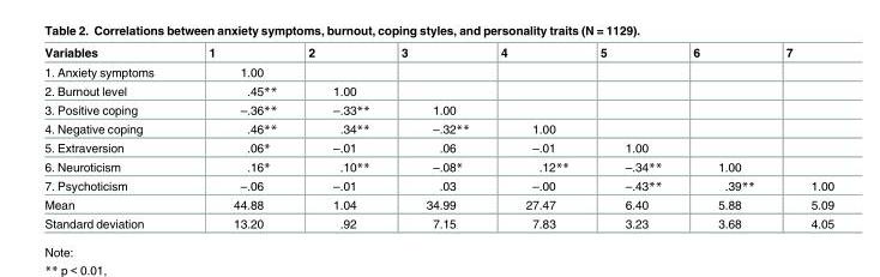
<table><thead><tr><td>Variables</td><td>1</td><td>2</td><td>3</td><td>4</td><td>5</td><td>6</td><td>7</td></tr></thead><tbody><tr><td>1. Anxiety symptoms</td><td>1.00</td><td></td><td></td><td></td><td></td><td></td><td></td></tr><tr><td>2. Burnout level</td><td>.45**</td><td>1.00</td><td></td><td></td><td></td><td></td><td></td></tr><tr><td>3. Positive coping</td><td>–.36**</td><td>–.33**</td><td>1.00</td><td></td><td></td><td></td><td></td></tr><tr><td>4. Negative coping</td><td>.46**</td><td>.34**</td><td>–.32**</td><td>1.00</td><td></td><td></td><td></td></tr><tr><td>5. Extraversion</td><td>.06*</td><td>–.01</td><td>.06</td><td>–.01</td><td>1.00</td><td></td><td></td></tr><tr><td>6. Neuroticism</td><td>.16*</td><td>.10**</td><td>–.08*</td><td>.12**</td><td>–.34**</td><td>1.00</td><td></td></tr><tr><td>7. Psychoticism</td><td>–.06</td><td>–.01</td><td>.03</td><td>–.00</td><td>–.43**</td><td>.39**</td><td>1.00</td></tr><tr><td>Mean</td><td>44.88</td><td>1.04</td><td>34.99</td><td>27.47</td><td>6.40</td><td>5.88</td><td>5.09</td></tr><tr><td>Standard deviation</td><td>13.20</td><td>.92</td><td>7.15</td><td>7.83</td><td>3.23</td><td>3.68</td><td>4.05</td></tr></tbody></table>